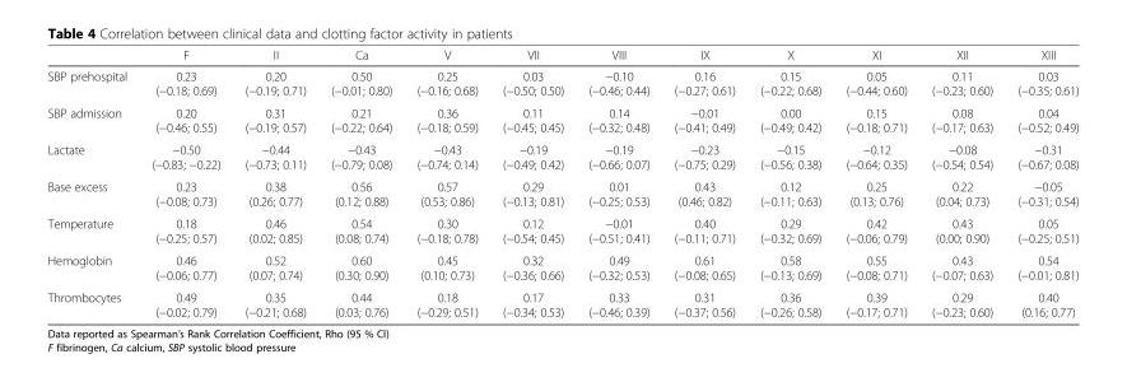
<table><thead><tr><td></td><td>F</td><td>II</td><td>Ca</td><td>V</td><td>VII</td><td>VIII</td><td>IX</td><td>X</td><td>XI</td><td>XII</td><td>XIII</td></tr></thead><tbody><tr><td>SBP prehospital</td><td>0.23 (−0.18; 0.69)</td><td>0.20 (−0.19; 0.71)</td><td>0.50 (−0.01; 0.80)</td><td>0.25 (−0.16; 0.68)</td><td>0.03 (−0.50; 0.50)</td><td>−0.10 (−0.46; 0.44)</td><td>0.16 (−0.27; 0.61)</td><td>0.15 (−0.22; 0.68)</td><td>0.05 (−0.44; 0.60)</td><td>0.11 (−0.23; 0.60)</td><td>0.03 (−0.35; 0.61)</td></tr><tr><td>SBP admission</td><td>0.20 (−0.46; 0.55)</td><td>0.31 (−0.19; 0.57)</td><td>0.21 (−0.22; 0.64)</td><td>0.36 (−0.18; 0.59)</td><td>0.11 (−0.45; 0.45)</td><td>0.14 (−0.32; 0.48)</td><td>−0.01 (−0.41; 0.49)</td><td>0.00 (−0.49; 0.42)</td><td>0.15 (−0.18; 0.71)</td><td>0.08 (−0.17; 0.63)</td><td>0.04 (−0.52; 0.49)</td></tr><tr><td>Lactate</td><td>−0.50 (−0.83; −0.22)</td><td>−0.44 (−0.73; 0.11)</td><td>−0.43 (−0.79; 0.08)</td><td>−0.43 (−0.74; 0.14)</td><td>−0.19 (−0.49; 0.42)</td><td>−0.19 (−0.66; 0.07)</td><td>−0.23 (−0.75; 0.29)</td><td>−0.15 (−0.56; 0.38)</td><td>−0.12 (−0.64; 0.35)</td><td>−0.08 (−0.54; 0.54)</td><td>−0.31 (−0.67; 0.08)</td></tr><tr><td>Base excess</td><td>0.23 (−0.08; 0.73)</td><td>0.38 (0.26; 0.77)</td><td>0.56 (0.12; 0.88)</td><td>0.57 (0.53; 0.86)</td><td>0.29 (−0.13; 0.81)</td><td>0.01 (−0.25; 0.53)</td><td>0.43 (0.46; 0.82)</td><td>0.12 (−0.11; 0.63)</td><td>0.25 (0.13; 0.76)</td><td>0.22 (0.04; 0.73)</td><td>−0.05 (−0.31; 0.54)</td></tr><tr><td>Temperature</td><td>0.18 (−0.25; 0.57)</td><td>0.46 (0.02; 0.85)</td><td>0.54 (0.08; 0.74)</td><td>0.30 (−0.18; 0.78)</td><td>0.12 (−0.54; 0.45)</td><td>−0.01 (−0.51; 0.41)</td><td>0.40 (−0.11; 0.71)</td><td>0.29 (−0.32; 0.69)</td><td>0.42 (−0.06; 0.79)</td><td>0.43 (0.00; 0.90)</td><td>0.05 (−0.25; 0.51)</td></tr><tr><td>Hemoglobin</td><td>0.46 (−0.06; 0.77)</td><td>0.52 (0.07; 0.74)</td><td>0.60 (0.30; 0.90)</td><td>0.45 (0.10; 0.73)</td><td>0.32 (−0.36; 0.66)</td><td>0.49 (−0.32; 0.53)</td><td>0.61 (−0.08; 0.65)</td><td>0.58 (−0.13; 0.69)</td><td>0.55 (−0.08; 0.71)</td><td>0.43 (−0.07; 0.63)</td><td>0.54 (−0.01; 0.81)</td></tr><tr><td>Thrombocytes</td><td>0.49 (−0.02; 0.79)</td><td>0.35 (−0.21; 0.68)</td><td>0.44 (0.03; 0.76)</td><td>0.18 (−0.29; 0.51)</td><td>0.17 (−0.34; 0.53)</td><td>0.33 (−0.46; 0.39)</td><td>0.31 (−0.37; 0.56)</td><td>0.36 (−0.26; 0.58)</td><td>0.39 (−0.17; 0.71)</td><td>0.29 (−0.23; 0.60)</td><td>0.40 (0.16; 0.77)</td></tr></tbody></table>